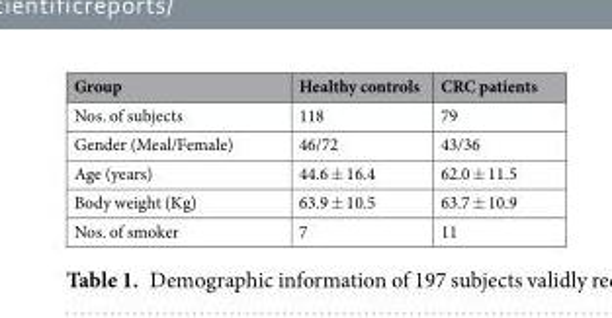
<table><thead><tr><td>Group</td><td>Healthy controls</td><td>CRC patients</td></tr></thead><tbody><tr><td>Nos. of subjects</td><td>118</td><td>79</td></tr><tr><td>Gender (Meal/Female)</td><td>46/72</td><td>43/36</td></tr><tr><td>Age (years)</td><td>44.6 ± 16.4</td><td>62.0 ± 11.5</td></tr><tr><td>Body weight (Kg)</td><td>63.9 ± 10.5</td><td>63.7 ± 10.9</td></tr><tr><td>Nos. of smoker</td><td>7</td><td>11</td></tr></tbody></table>